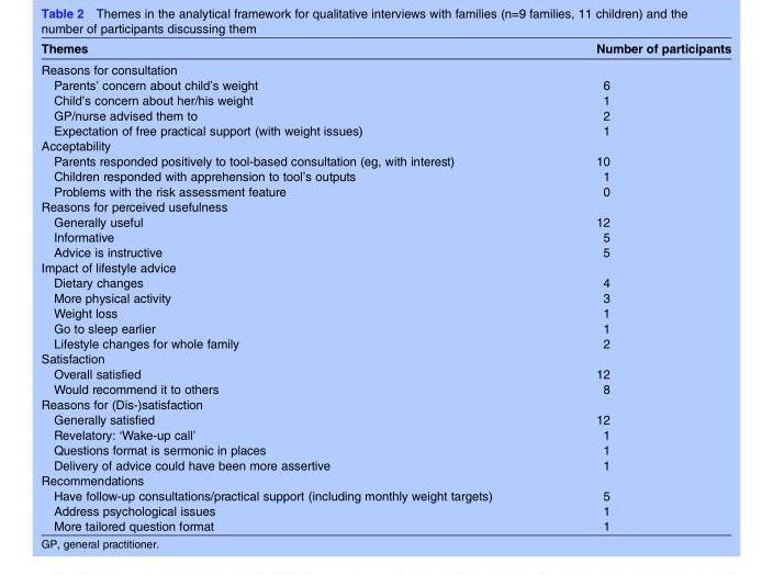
<table><thead><tr><td>Themes</td><td>Number of participants</td></tr></thead><tbody><tr><td colspan="2">Reasons for consultation</td></tr><tr><td>Parents’ concern about child’s weight</td><td>6</td></tr><tr><td>Child’s concern about her/his weight</td><td>1</td></tr><tr><td>GP/nurse advised them to</td><td>2</td></tr><tr><td>Expectation of free practical support (with weight issues)</td><td>1</td></tr><tr><td colspan="2">Acceptability</td></tr><tr><td>Parents responded positively to tool-based consultation (eg, with interest)</td><td>10</td></tr><tr><td>Children responded with apprehension to tool’s outputs</td><td>1</td></tr><tr><td>Problems with the risk assessment feature</td><td>0</td></tr><tr><td colspan="2">Reasons for perceived usefulness</td></tr><tr><td>Generally useful</td><td>12</td></tr><tr><td>Informative</td><td>5</td></tr><tr><td>Advice is instructive</td><td>5</td></tr><tr><td colspan="2">Impact of lifestyle advice</td></tr><tr><td>Dietary changes</td><td>4</td></tr><tr><td>More physical activity</td><td>3</td></tr><tr><td>Weight loss</td><td>1</td></tr><tr><td>Go to sleep earlier</td><td>1</td></tr><tr><td>Lifestyle changes for whole family</td><td>2</td></tr><tr><td colspan="2">Satisfaction</td></tr><tr><td>Overall satisfied</td><td>12</td></tr><tr><td>Would recommend it to others</td><td>8</td></tr><tr><td colspan="2">Reasons for (Dis-)satisfaction</td></tr><tr><td>Generally satisfied</td><td>12</td></tr><tr><td>Revelatory: ‘Wake-up call’</td><td>1</td></tr><tr><td>Questions format is sermonic in places</td><td>1</td></tr><tr><td>Delivery of advice could have been more assertive</td><td>1</td></tr><tr><td colspan="2">Recommendations</td></tr><tr><td>Have follow-up consultations/practical support (including monthly weight targets)</td><td>5</td></tr><tr><td>Address psychological issues</td><td>1</td></tr><tr><td>More tailored question format</td><td>1</td></tr></tbody></table>